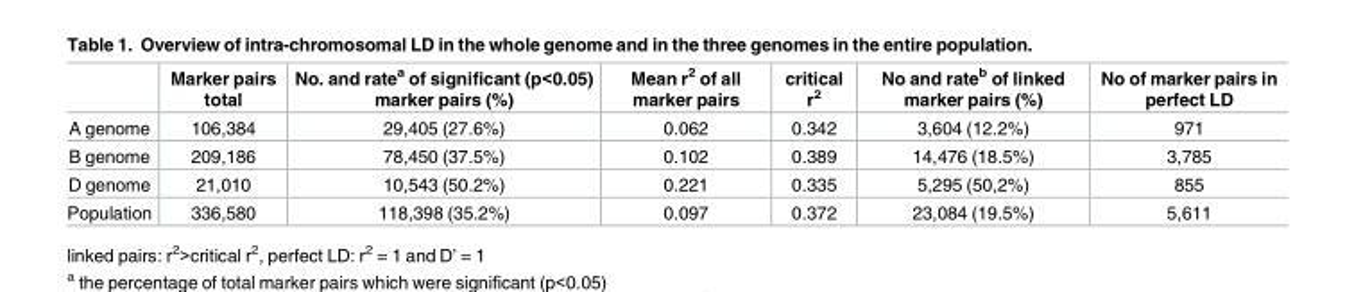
<table><thead><tr><td></td><td>Marker pairs total</td><td>No. and rate<sup>a</sup> of significant (p&lt;0.05) marker pairs (%)</td><td>Mean r<sup>2</sup> of all marker pairs</td><td>critical r<sup>2</sup></td><td>No and rate<sup>b</sup> of linked marker pairs (%)</td><td>No of marker pairs in perfect LD</td></tr></thead><tbody><tr><td>A genome</td><td>106,384</td><td>29,405 (27.6%)</td><td>0.062</td><td>0.342</td><td>3,604 (12.2%)</td><td>971</td></tr><tr><td>B genome</td><td>209,186</td><td>78,450 (37.5%)</td><td>0.102</td><td>0.389</td><td>14,476 (18.5%)</td><td>3,785</td></tr><tr><td>D genome</td><td>21,010</td><td>10,543 (50.2%)</td><td>0.221</td><td>0.335</td><td>5,295 (50,2%)</td><td>855</td></tr><tr><td>Population</td><td>336,580</td><td>118,398 (35.2%)</td><td>0.097</td><td>0.372</td><td>23,084 (19.5%)</td><td>5,611</td></tr></tbody></table>